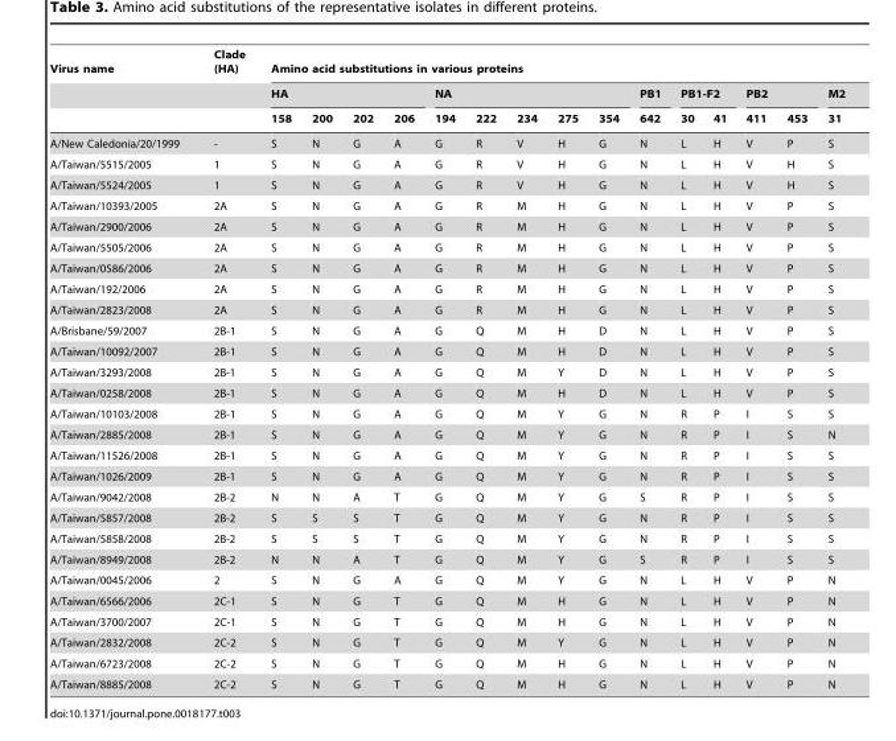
<table><thead><tr><td rowspan="3">Virus name</td><td rowspan="3">Clade (HA)</td><td colspan="15">Amino acid substitutions in various proteins</td></tr><tr><td colspan="4">HA</td><td colspan="5">NA</td><td rowspan="2">PB1 642</td><td colspan="2">PB1-F2</td><td colspan="2">PB2</td><td rowspan="2">M2 31</td></tr><tr><td>158</td><td>200</td><td>202</td><td>206</td><td>194</td><td>222</td><td>234</td><td>275</td><td>354</td><td>30</td><td>41</td><td>411</td><td>453</td></tr></thead><tbody><tr><td>A/New Caledonia/20/1999</td><td>-</td><td>S</td><td>N</td><td>G</td><td>A</td><td>G</td><td>R</td><td>V</td><td>H</td><td>G</td><td>N</td><td>L</td><td>H</td><td>V</td><td>P</td><td>S</td></tr><tr><td>A/Taiwan/5515/2005</td><td>1</td><td>S</td><td>N</td><td>G</td><td>A</td><td>G</td><td>R</td><td>V</td><td>H</td><td>G</td><td>N</td><td>L</td><td>H</td><td>V</td><td>H</td><td>S</td></tr><tr><td>A/Taiwan/5524/2005</td><td>1</td><td>S</td><td>N</td><td>G</td><td>A</td><td>G</td><td>R</td><td>V</td><td>H</td><td>G</td><td>N</td><td>L</td><td>H</td><td>V</td><td>H</td><td>S</td></tr><tr><td>A/Taiwan/10393/2005</td><td>2A</td><td>S</td><td>N</td><td>G</td><td>A</td><td>G</td><td>R</td><td>M</td><td>H</td><td>G</td><td>N</td><td>L</td><td>H</td><td>V</td><td>P</td><td>S</td></tr><tr><td>A/Taiwan/2900/2006</td><td>2A</td><td>S</td><td>N</td><td>G</td><td>A</td><td>G</td><td>R</td><td>M</td><td>H</td><td>G</td><td>N</td><td>L</td><td>H</td><td>V</td><td>P</td><td>S</td></tr><tr><td>A/Taiwan/5505/2006</td><td>2A</td><td>S</td><td>N</td><td>G</td><td>A</td><td>G</td><td>R</td><td>M</td><td>H</td><td>G</td><td>N</td><td>L</td><td>H</td><td>V</td><td>P</td><td>S</td></tr><tr><td>A/Taiwan/0586/2006</td><td>2A</td><td>S</td><td>N</td><td>G</td><td>A</td><td>G</td><td>R</td><td>M</td><td>H</td><td>G</td><td>N</td><td>L</td><td>H</td><td>V</td><td>P</td><td>S</td></tr><tr><td>A/Taiwan/192/2006</td><td>2A</td><td>S</td><td>N</td><td>G</td><td>A</td><td>G</td><td>R</td><td>M</td><td>H</td><td>G</td><td>N</td><td>L</td><td>H</td><td>V</td><td>P</td><td>S</td></tr><tr><td>A/Taiwan/2823/2008</td><td>2A</td><td>S</td><td>N</td><td>G</td><td>A</td><td>G</td><td>R</td><td>M</td><td>H</td><td>G</td><td>N</td><td>L</td><td>H</td><td>V</td><td>P</td><td>S</td></tr><tr><td>A/Brisbane/59/2007</td><td>2B-1</td><td>S</td><td>N</td><td>G</td><td>A</td><td>G</td><td>Q</td><td>M</td><td>H</td><td>D</td><td>N</td><td>L</td><td>H</td><td>V</td><td>P</td><td>S</td></tr><tr><td>A/Taiwan/10092/2007</td><td>2B-1</td><td>S</td><td>N</td><td>G</td><td>A</td><td>G</td><td>Q</td><td>M</td><td>H</td><td>D</td><td>N</td><td>L</td><td>H</td><td>V</td><td>P</td><td>S</td></tr><tr><td>A/Taiwan/3293/2008</td><td>2B-1</td><td>S</td><td>N</td><td>G</td><td>A</td><td>G</td><td>Q</td><td>M</td><td>Y</td><td>D</td><td>N</td><td>L</td><td>H</td><td>V</td><td>P</td><td>S</td></tr><tr><td>A/Taiwan/0258/2008</td><td>2B-1</td><td>S</td><td>N</td><td>G</td><td>A</td><td>G</td><td>Q</td><td>M</td><td>H</td><td>D</td><td>N</td><td>L</td><td>H</td><td>V</td><td>P</td><td>S</td></tr><tr><td>A/Taiwan/10103/2008</td><td>2B-1</td><td>S</td><td>N</td><td>G</td><td>A</td><td>G</td><td>Q</td><td>M</td><td>Y</td><td>G</td><td>N</td><td>R</td><td>P</td><td>I</td><td>S</td><td>S</td></tr><tr><td>A/Taiwan/2885/2008</td><td>2B-1</td><td>S</td><td>N</td><td>G</td><td>A</td><td>G</td><td>Q</td><td>M</td><td>Y</td><td>G</td><td>N</td><td>R</td><td>P</td><td>I</td><td>S</td><td>N</td></tr><tr><td>A/Taiwan/11526/2008</td><td>2B-1</td><td>S</td><td>N</td><td>G</td><td>A</td><td>G</td><td>Q</td><td>M</td><td>Y</td><td>G</td><td>N</td><td>R</td><td>P</td><td>I</td><td>S</td><td>S</td></tr><tr><td>A/Taiwan/1026/2009</td><td>2B-1</td><td>S</td><td>N</td><td>G</td><td>A</td><td>G</td><td>Q</td><td>M</td><td>Y</td><td>G</td><td>N</td><td>R</td><td>P</td><td>I</td><td>S</td><td>S</td></tr><tr><td>A/Taiwan/9042/2008</td><td>2B-2</td><td>N</td><td>N</td><td>A</td><td>T</td><td>G</td><td>Q</td><td>M</td><td>Y</td><td>G</td><td>S</td><td>R</td><td>P</td><td>I</td><td>S</td><td>S</td></tr><tr><td>A/Taiwan/5857/2008</td><td>2B-2</td><td>S</td><td>S</td><td>S</td><td>T</td><td>G</td><td>Q</td><td>M</td><td>Y</td><td>G</td><td>N</td><td>R</td><td>P</td><td>I</td><td>S</td><td>S</td></tr><tr><td>A/Taiwan/5858/2008</td><td>2B-2</td><td>S</td><td>S</td><td>S</td><td>T</td><td>G</td><td>Q</td><td>M</td><td>Y</td><td>G</td><td>N</td><td>R</td><td>P</td><td>I</td><td>S</td><td>S</td></tr><tr><td>A/Taiwan/8949/2008</td><td>2B-2</td><td>N</td><td>N</td><td>A</td><td>T</td><td>G</td><td>Q</td><td>M</td><td>Y</td><td>G</td><td>S</td><td>R</td><td>P</td><td>I</td><td>S</td><td>S</td></tr><tr><td>A/Taiwan/0045/2006</td><td>2</td><td>S</td><td>N</td><td>G</td><td>A</td><td>G</td><td>Q</td><td>M</td><td>Y</td><td>G</td><td>N</td><td>L</td><td>H</td><td>V</td><td>P</td><td>N</td></tr><tr><td>A/Taiwan/6566/2006</td><td>2C-1</td><td>S</td><td>N</td><td>G</td><td>T</td><td>G</td><td>Q</td><td>M</td><td>H</td><td>G</td><td>N</td><td>L</td><td>H</td><td>V</td><td>P</td><td>N</td></tr><tr><td>A/Taiwan/3700/2007</td><td>2C-1</td><td>S</td><td>N</td><td>G</td><td>T</td><td>G</td><td>Q</td><td>M</td><td>H</td><td>G</td><td>N</td><td>L</td><td>H</td><td>V</td><td>P</td><td>N</td></tr><tr><td>A/Taiwan/2832/2008</td><td>2C-2</td><td>S</td><td>N</td><td>G</td><td>T</td><td>G</td><td>Q</td><td>M</td><td>Y</td><td>G</td><td>N</td><td>L</td><td>H</td><td>V</td><td>P</td><td>N</td></tr><tr><td>A/Taiwan/6723/2008</td><td>2C-2</td><td>S</td><td>N</td><td>G</td><td>T</td><td>G</td><td>Q</td><td>M</td><td>H</td><td>G</td><td>N</td><td>L</td><td>H</td><td>V</td><td>P</td><td>N</td></tr><tr><td>A/Taiwan/8885/2008</td><td>2C-2</td><td>S</td><td>N</td><td>G</td><td>T</td><td>G</td><td>Q</td><td>M</td><td>H</td><td>G</td><td>N</td><td>L</td><td>H</td><td>V</td><td>P</td><td>N</td></tr></tbody></table>